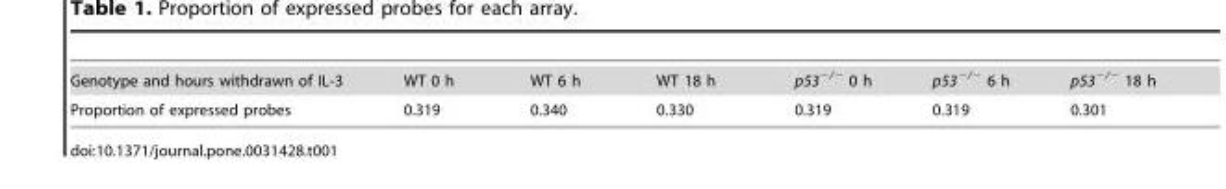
<table><tbody><tr><td>Genotype and hours withdrawn of IL-3</td><td>WT 0 h</td><td>WT 6 h</td><td>WT 18 h</td><td>p53<sup>−/−</sup> 0 h</td><td>p53<sup>−/−</sup> 6 h</td><td>p53<sup>−/−</sup> 18 h</td></tr><tr><td>Proportion of expressed probes</td><td>0.319</td><td>0.340</td><td>0.330</td><td>0.319</td><td>0.319</td><td>0.301</td></tr></tbody></table>